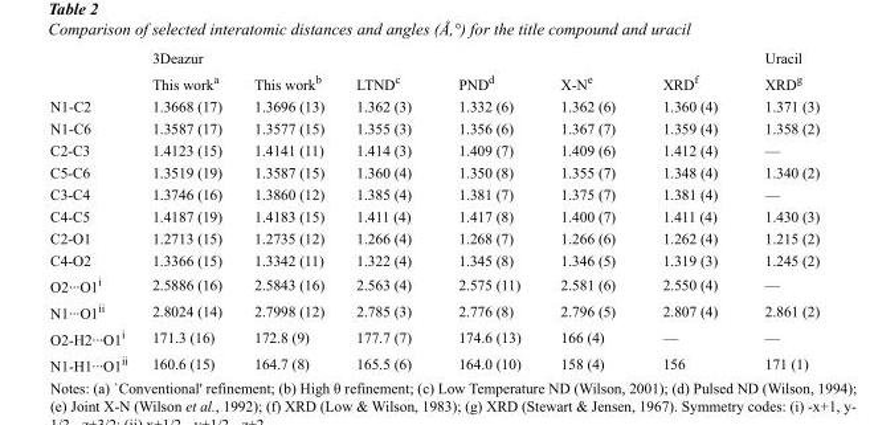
<table><thead><tr><td></td><td>3Deazur</td><td></td><td></td><td></td><td></td><td></td><td>Uracil</td></tr></thead><tbody><tr><td></td><td>This work<sup>a</sup></td><td>This work<sup>b</sup></td><td>LTND<sup>c</sup></td><td>PND<sup>d</sup></td><td>X-N<sup>e</sup></td><td>XRD<sup>f</sup></td><td>XRD<sup>g</sup></td></tr><tr><td>N1-C2</td><td>1.3668 (17)</td><td>1.3696 (13)</td><td>1.362 (3)</td><td>1.332 (6)</td><td>1.362 (6)</td><td>1.360 (4)</td><td>1.371 (3)</td></tr><tr><td>N1-C6</td><td>1.3587 (17)</td><td>1.3577 (15)</td><td>1.355 (3)</td><td>1.356 (6)</td><td>1.367 (7)</td><td>1.359 (4)</td><td>1.358 (2)</td></tr><tr><td>C2-C3</td><td>1.4123 (15)</td><td>1.4141 (11)</td><td>1.414 (3)</td><td>1.409 (7)</td><td>1.409 (6)</td><td>1.412 (4)</td><td>—</td></tr><tr><td>C5-C6</td><td>1.3519 (19)</td><td>1.3587 (15)</td><td>1.360 (4)</td><td>1.350 (8)</td><td>1.355 (7)</td><td>1.348 (4)</td><td>1.340 (2)</td></tr><tr><td>C3-C4</td><td>1.3746 (16)</td><td>1.3860 (12)</td><td>1.385 (4)</td><td>1.381 (7)</td><td>1.375 (7)</td><td>1.381 (4)</td><td>—</td></tr><tr><td>C4-C5</td><td>1.4187 (19)</td><td>1.4183 (15)</td><td>1.411 (4)</td><td>1.417 (8)</td><td>1.400 (7)</td><td>1.411 (4)</td><td>1.430 (3)</td></tr><tr><td>C2-O1</td><td>1.2713 (15)</td><td>1.2735 (12)</td><td>1.266 (4)</td><td>1.268 (7)</td><td>1.266 (6)</td><td>1.262 (4)</td><td>1.215 (2)</td></tr><tr><td>C4-O2</td><td>1.3366 (15)</td><td>1.3342 (11)</td><td>1.322 (4)</td><td>1.345 (8)</td><td>1.346 (5)</td><td>1.319 (3)</td><td>1.245 (2)</td></tr><tr><td>O2···O1<sup>i</sup></td><td>2.5886 (16)</td><td>2.5843 (16)</td><td>2.563 (4)</td><td>2.575 (11)</td><td>2.581 (6)</td><td>2.550 (4)</td><td>—</td></tr><tr><td>N1···O1<sup>ii</sup></td><td>2.8024 (14)</td><td>2.7998 (12)</td><td>2.785 (3)</td><td>2.776 (8)</td><td>2.796 (5)</td><td>2.807 (4)</td><td>2.861 (2)</td></tr><tr><td>O2-H2···O1<sup>i</sup></td><td>171.3 (16)</td><td>172.8 (9)</td><td>177.7 (7)</td><td>174.6 (13)</td><td>166 (4)</td><td>—</td><td>—</td></tr><tr><td>N1-H1···O1<sup>ii</sup></td><td>160.6 (15)</td><td>164.7 (8)</td><td>165.5 (6)</td><td>164.0 (10)</td><td>158 (4)</td><td>156</td><td>171 (1)</td></tr></tbody></table>